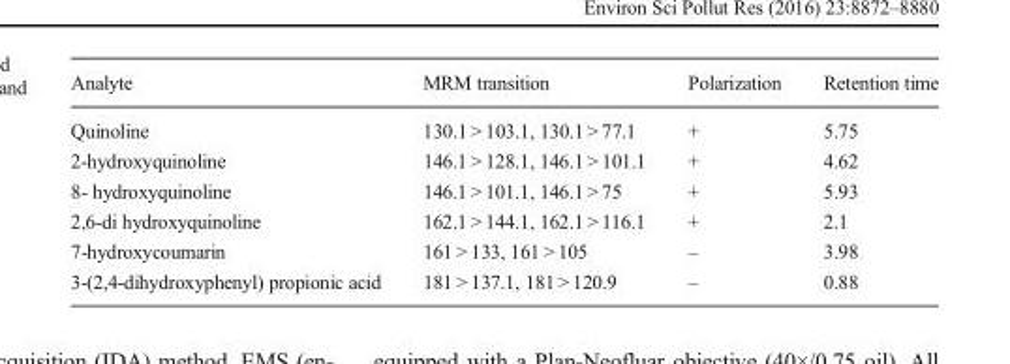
<table><thead><tr><td>Analyte</td><td>MRM transition</td><td>Polarization</td><td>Retention time</td></tr></thead><tbody><tr><td>Quinoline</td><td>130.1 &gt; 103.1, 130.1 &gt; 77.1</td><td>+</td><td>5.75</td></tr><tr><td>2-hydroxyquinoline</td><td>146.1 &gt; 128.1, 146.1 &gt; 101.1</td><td>+</td><td>4.62</td></tr><tr><td>8- hydroxyquinoline</td><td>146.1 &gt; 101.1, 146.1 &gt; 75</td><td>+</td><td>5.93</td></tr><tr><td>2,6-di hydroxyquinoline</td><td>162.1 &gt; 144.1, 162.1 &gt; 116.1</td><td>+</td><td>2.1</td></tr><tr><td>7-hydroxycoumarin</td><td>161 &gt; 133, 161 &gt; 105</td><td>–</td><td>3.98</td></tr><tr><td>3-(2,4-dihydroxyphenyl) propionic acid</td><td>181 &gt; 137.1, 181 &gt; 120.9</td><td>–</td><td>0.88</td></tr></tbody></table>